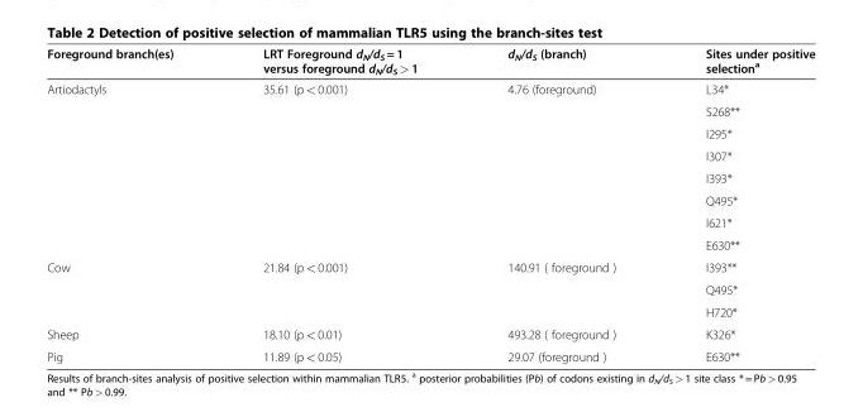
<table><thead><tr><td>Foreground branch(es)</td><td>LRT Foreground dN/dS = 1 versus foreground dN/dS &gt; 1</td><td>d<sub>N</sub>/d<sub>S</sub> (branch)</td><td>Sites under positive selection<sup>a</sup></td></tr></thead><tbody><tr><td rowspan="8">Artiodactyls</td><td rowspan="8">35.61 (p &lt; 0.001)</td><td rowspan="8">4.76 (foreground)</td><td>L34*</td></tr><tr><td>S268**</td></tr><tr><td>I295*</td></tr><tr><td>I307*</td></tr><tr><td>I393*</td></tr><tr><td>Q495*</td></tr><tr><td>I621*</td></tr><tr><td>E630**</td></tr><tr><td rowspan="3">Cow</td><td rowspan="3">21.84 (p &lt; 0.001)</td><td rowspan="3">140.91 ( foreground )</td><td>I393**</td></tr><tr><td>Q495*</td></tr><tr><td>H720*</td></tr><tr><td>Sheep</td><td>18.10 (p &lt; 0.01)</td><td>493.28 ( foreground )</td><td>K326*</td></tr><tr><td>Pig</td><td>11.89 (p &lt; 0.05)</td><td>29.07 (foreground )</td><td>E630**</td></tr></tbody></table>